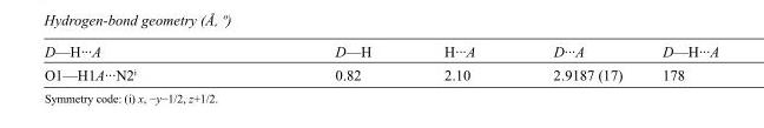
<table><tbody><tr><td>D—H···A</td><td>D—H</td><td>H···A</td><td>D···A</td><td>D—H···A</td></tr><tr><td>O1—H1A···N2<sup>i</sup></td><td>0.82</td><td>2.10</td><td>2.9187 (17)</td><td>178</td></tr></tbody></table>